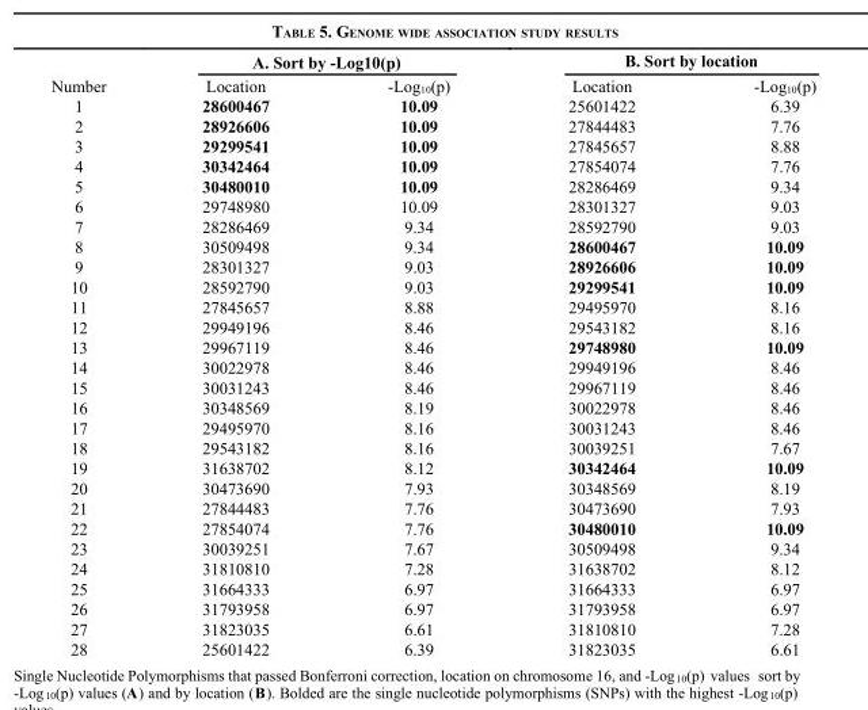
<table><thead><tr><td rowspan="2">Number</td><td colspan="2">A. Sort by -Log10(p)</td><td colspan="2">B. Sort by location</td></tr><tr><td>Location</td><td>-Log<sub>10</sub>(p)</td><td>Location</td><td>-Log<sub>10</sub>(p)</td></tr></thead><tbody><tr><td>1</td><td>28600467</td><td>10.09</td><td>25601422</td><td>6.39</td></tr><tr><td>2</td><td>28926606</td><td>10.09</td><td>27844483</td><td>7.76</td></tr><tr><td>3</td><td>29299541</td><td>10.09</td><td>27845657</td><td>8.88</td></tr><tr><td>4</td><td>30342464</td><td>10.09</td><td>27854074</td><td>7.76</td></tr><tr><td>5</td><td>30480010</td><td>10.09</td><td>28286469</td><td>9.34</td></tr><tr><td>6</td><td>29748980</td><td>10.09</td><td>28301327</td><td>9.03</td></tr><tr><td>7</td><td>28286469</td><td>9.34</td><td>28592790</td><td>9.03</td></tr><tr><td>8</td><td>30509498</td><td>9.34</td><td>28600467</td><td>10.09</td></tr><tr><td>9</td><td>28301327</td><td>9.03</td><td>28926606</td><td>10.09</td></tr><tr><td>10</td><td>28592790</td><td>9.03</td><td>29299541</td><td>10.09</td></tr><tr><td>11</td><td>27845657</td><td>8.88</td><td>29495970</td><td>8.16</td></tr><tr><td>12</td><td>29949196</td><td>8.46</td><td>29543182</td><td>8.16</td></tr><tr><td>13</td><td>29967119</td><td>8.46</td><td>29748980</td><td>10.09</td></tr><tr><td>14</td><td>30022978</td><td>8.46</td><td>29949196</td><td>8.46</td></tr><tr><td>15</td><td>30031243</td><td>8.46</td><td>29967119</td><td>8.46</td></tr><tr><td>16</td><td>30348569</td><td>8.19</td><td>30022978</td><td>8.46</td></tr><tr><td>17</td><td>29495970</td><td>8.16</td><td>30031243</td><td>8.46</td></tr><tr><td>18</td><td>29543182</td><td>8.16</td><td>30039251</td><td>7.67</td></tr><tr><td>19</td><td>31638702</td><td>8.12</td><td>30342464</td><td>10.09</td></tr><tr><td>20</td><td>30473690</td><td>7.93</td><td>30348569</td><td>8.19</td></tr><tr><td>21</td><td>27844483</td><td>7.76</td><td>30473690</td><td>7.93</td></tr><tr><td>22</td><td>27854074</td><td>7.76</td><td>30480010</td><td>10.09</td></tr><tr><td>23</td><td>30039251</td><td>7.67</td><td>30509498</td><td>9.34</td></tr><tr><td>24</td><td>31810810</td><td>7.28</td><td>31638702</td><td>8.12</td></tr><tr><td>25</td><td>31664333</td><td>6.97</td><td>31664333</td><td>6.97</td></tr><tr><td>26</td><td>31793958</td><td>6.97</td><td>31793958</td><td>6.97</td></tr><tr><td>27</td><td>31823035</td><td>6.61</td><td>31810810</td><td>7.28</td></tr><tr><td>28</td><td>25601422</td><td>6.39</td><td>31823035</td><td>6.61</td></tr></tbody></table>